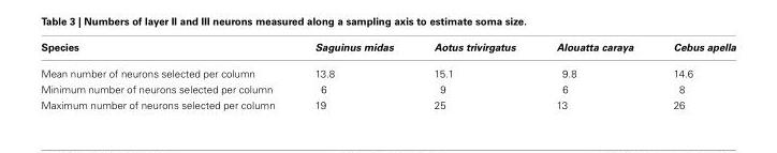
<table><thead><tr><td>Species</td><td>Saguinus midas</td><td>Aotus trivirgatus</td><td>Alouatta caraya</td><td>Cebus apella</td></tr></thead><tbody><tr><td>Mean number of neurons selected per column</td><td>13.8</td><td>15.1</td><td>9.8</td><td>14.6</td></tr><tr><td>Minimum number of neurons selected per column</td><td>6</td><td>9</td><td>6</td><td>8</td></tr><tr><td>Maximum number of neurons selected per column</td><td>19</td><td>25</td><td>13</td><td>26</td></tr></tbody></table>